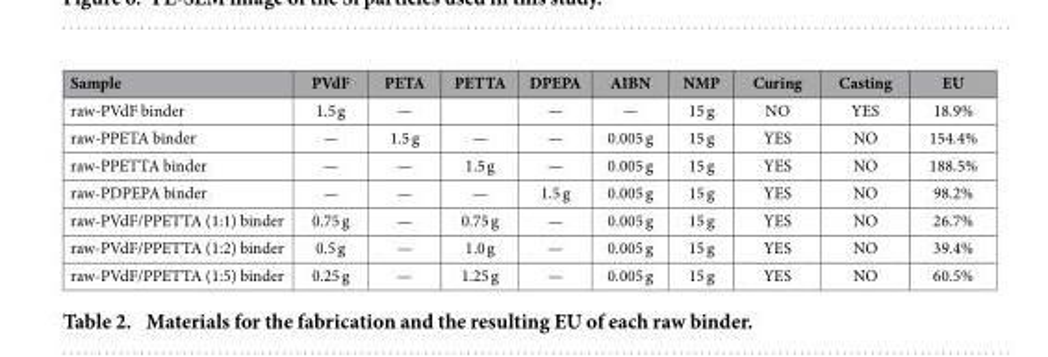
<table><thead><tr><td>Sample</td><td>PVdF</td><td>PETA</td><td>PETTA</td><td>DPEPA</td><td>AIBN</td><td>NMP</td><td>Curing</td><td>Casting</td><td>EU</td></tr></thead><tbody><tr><td>raw-PVdF binder</td><td>1.5 g</td><td>—</td><td></td><td>—</td><td>—</td><td>15 g</td><td>NO</td><td>YES</td><td>18.9%</td></tr><tr><td>raw-PPETA binder</td><td>—</td><td>1.5 g</td><td>—</td><td>—</td><td>0.005 g</td><td>15 g</td><td>YES</td><td>NO</td><td>154.4%</td></tr><tr><td>raw-PPETTA binder</td><td>—</td><td>—</td><td>1.5 g</td><td>—</td><td>0.005 g</td><td>15 g</td><td>YES</td><td>NO</td><td>188.5%</td></tr><tr><td>raw-PDPEPA binder</td><td>—</td><td>—</td><td>—</td><td>1.5 g</td><td>0.005 g</td><td>15 g</td><td>YES</td><td>NO</td><td>98.2%</td></tr><tr><td>raw-PVdF/PPETTA (1:1) binder</td><td>0.75 g</td><td>—</td><td>0.75 g</td><td>—</td><td>0.005 g</td><td>15 g</td><td>YES</td><td>NO</td><td>26.7%</td></tr><tr><td>raw-PVdF/PPETTA (1:2) binder</td><td>0.5 g</td><td>—</td><td>1.0 g</td><td>—</td><td>0.005 g</td><td>15 g</td><td>YES</td><td>NO</td><td>39.4%</td></tr><tr><td>raw-PVdF/PPETTA (1:5) binder</td><td>0.25 g</td><td>—</td><td>1.25 g</td><td>—</td><td>0.005 g</td><td>15 g</td><td>YES</td><td>NO</td><td>60.5%</td></tr></tbody></table>